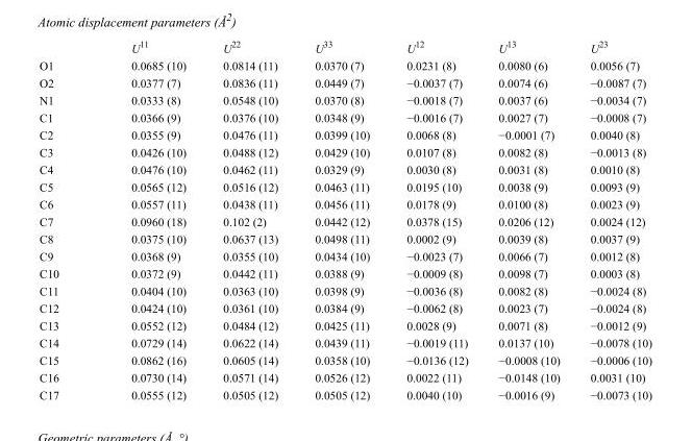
<table><thead><tr><td></td><td>U<sup>11</sup></td><td>U<sup>22</sup></td><td>U<sup>33</sup></td><td>U<sup>12</sup></td><td>U<sup>13</sup></td><td>U<sup>23</sup></td></tr></thead><tbody><tr><td>O1</td><td>0.0685 (10)</td><td>0.0814 (11)</td><td>0.0370 (7)</td><td>0.0231 (8)</td><td>0.0080 (6)</td><td>0.0056 (7)</td></tr><tr><td>O2</td><td>0.0377 (7)</td><td>0.0836 (11)</td><td>0.0449 (7)</td><td>−0.0037 (7)</td><td>0.0074 (6)</td><td>−0.0087 (7)</td></tr><tr><td>N1</td><td>0.0333 (8)</td><td>0.0548 (10)</td><td>0.0370 (8)</td><td>−0.0018 (7)</td><td>0.0037 (6)</td><td>−0.0034 (7)</td></tr><tr><td>C1</td><td>0.0366 (9)</td><td>0.0376 (10)</td><td>0.0348 (9)</td><td>−0.0016 (7)</td><td>0.0027 (7)</td><td>−0.0008 (7)</td></tr><tr><td>C2</td><td>0.0355 (9)</td><td>0.0476 (11)</td><td>0.0399 (10)</td><td>0.0068 (8)</td><td>−0.0001 (7)</td><td>0.0040 (8)</td></tr><tr><td>C3</td><td>0.0426 (10)</td><td>0.0488 (12)</td><td>0.0429 (10)</td><td>0.0107 (8)</td><td>0.0082 (8)</td><td>−0.0013 (8)</td></tr><tr><td>C4</td><td>0.0476 (10)</td><td>0.0462 (11)</td><td>0.0329 (9)</td><td>0.0030 (8)</td><td>0.0031 (8)</td><td>0.0010 (8)</td></tr><tr><td>C5</td><td>0.0565 (12)</td><td>0.0516 (12)</td><td>0.0463 (11)</td><td>0.0195 (10)</td><td>0.0038 (9)</td><td>0.0093 (9)</td></tr><tr><td>C6</td><td>0.0557 (11)</td><td>0.0438 (11)</td><td>0.0456 (11)</td><td>0.0178 (9)</td><td>0.0100 (8)</td><td>0.0023 (9)</td></tr><tr><td>C7</td><td>0.0960 (18)</td><td>0.102 (2)</td><td>0.0442 (12)</td><td>0.0378 (15)</td><td>0.0206 (12)</td><td>0.0024 (12)</td></tr><tr><td>C8</td><td>0.0375 (10)</td><td>0.0637 (13)</td><td>0.0498 (11)</td><td>0.0002 (9)</td><td>0.0039 (8)</td><td>0.0037 (9)</td></tr><tr><td>C9</td><td>0.0368 (9)</td><td>0.0355 (10)</td><td>0.0434 (10)</td><td>−0.0023 (7)</td><td>0.0066 (7)</td><td>0.0012 (8)</td></tr><tr><td>C10</td><td>0.0372 (9)</td><td>0.0442 (11)</td><td>0.0388 (9)</td><td>−0.0009 (8)</td><td>0.0098 (7)</td><td>0.0003 (8)</td></tr><tr><td>C11</td><td>0.0404 (10)</td><td>0.0363 (10)</td><td>0.0398 (9)</td><td>−0.0036 (8)</td><td>0.0082 (8)</td><td>−0.0024 (8)</td></tr><tr><td>C12</td><td>0.0424 (10)</td><td>0.0361 (10)</td><td>0.0384 (9)</td><td>−0.0062 (8)</td><td>0.0023 (7)</td><td>−0.0024 (8)</td></tr><tr><td>C13</td><td>0.0552 (12)</td><td>0.0484 (12)</td><td>0.0425 (11)</td><td>0.0028 (9)</td><td>0.0071 (8)</td><td>−0.0012 (9)</td></tr><tr><td>C14</td><td>0.0729 (14)</td><td>0.0622 (14)</td><td>0.0439 (11)</td><td>−0.0019 (11)</td><td>0.0137 (10)</td><td>−0.0078 (10)</td></tr><tr><td>C15</td><td>0.0862 (16)</td><td>0.0605 (14)</td><td>0.0358 (10)</td><td>−0.0136 (12)</td><td>−0.0008 (10)</td><td>−0.0006 (10)</td></tr><tr><td>C16</td><td>0.0730 (14)</td><td>0.0571 (14)</td><td>0.0526 (12)</td><td>0.0022 (11)</td><td>−0.0148 (10)</td><td>0.0031 (10)</td></tr><tr><td>C17</td><td>0.0555 (12)</td><td>0.0505 (12)</td><td>0.0505 (12)</td><td>0.0040 (10)</td><td>−0.0016 (9)</td><td>−0.0073 (10)</td></tr></tbody></table>